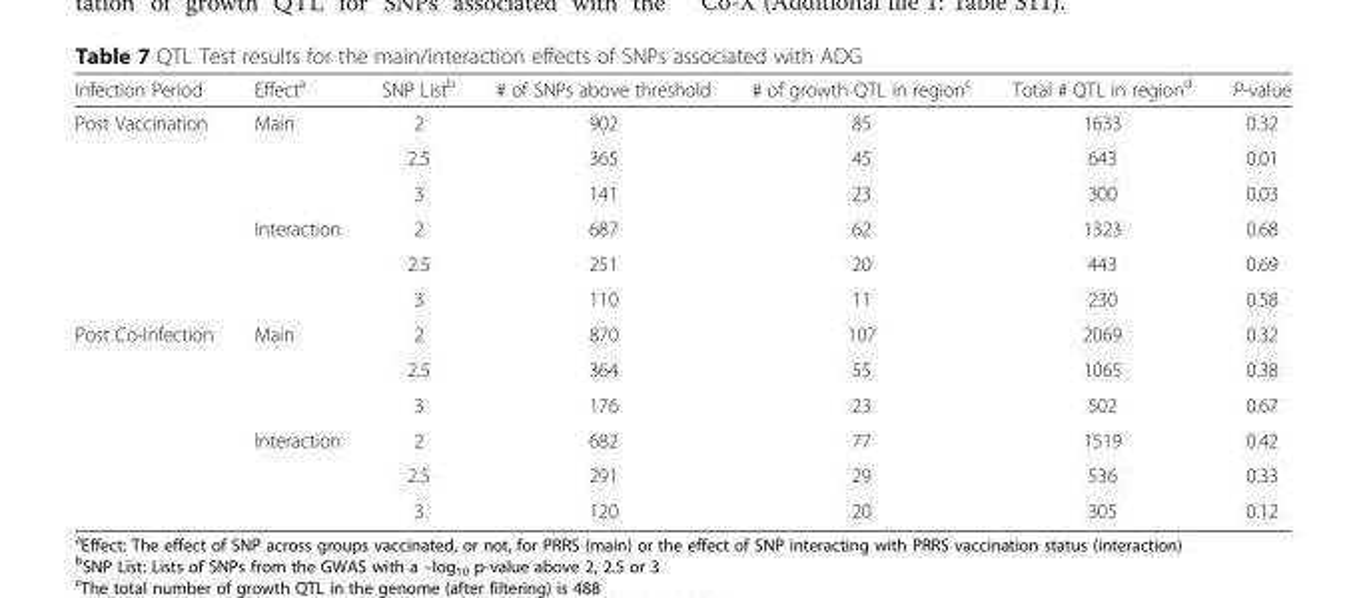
<table><thead><tr><td>Infection Period</td><td>Effect<sup>a</sup></td><td>SNP List<sup>b</sup></td><td># of SNPs above threshold</td><td># of growth QTL in region<sup>c</sup></td><td>Total # QTL in region<sup>d</sup></td><td>P-value</td></tr></thead><tbody><tr><td rowspan="6">Post Vaccination</td><td rowspan="3">Main</td><td>2</td><td>902</td><td>85</td><td>1633</td><td>0.32</td></tr><tr><td>2.5</td><td>365</td><td>45</td><td>643</td><td>0.01</td></tr><tr><td>3</td><td>141</td><td>23</td><td>300</td><td>0.03</td></tr><tr><td rowspan="3">Interaction</td><td>2</td><td>687</td><td>62</td><td>1323</td><td>0.68</td></tr><tr><td>2.5</td><td>251</td><td>20</td><td>443</td><td>0.69</td></tr><tr><td>3</td><td>110</td><td>11</td><td>230</td><td>0.58</td></tr><tr><td rowspan="6">Post Co-Infection</td><td rowspan="3">Main</td><td>2</td><td>870</td><td>107</td><td>2069</td><td>0.32</td></tr><tr><td>2.5</td><td>364</td><td>55</td><td>1065</td><td>0.38</td></tr><tr><td>3</td><td>176</td><td>23</td><td>502</td><td>0.67</td></tr><tr><td rowspan="3">Interaction</td><td>2</td><td>682</td><td>77</td><td>1519</td><td>0.42</td></tr><tr><td>2.5</td><td>291</td><td>29</td><td>536</td><td>0.33</td></tr><tr><td>3</td><td>120</td><td>20</td><td>305</td><td>0.12</td></tr></tbody></table>